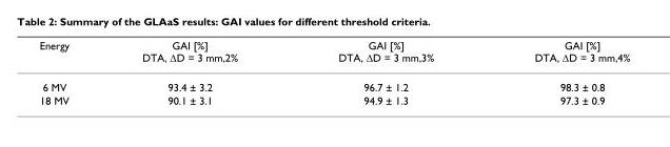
<table><thead><tr><td>Energy</td><td>GAI [%] DTA, ΔD = 3 mm,2%</td><td>GAI [%] DTA, ΔD = 3 mm,3%</td><td>GAI [%] DTA, ΔD = 3 mm,4%</td></tr></thead><tbody><tr><td>6 MV</td><td>93.4 ± 3.2</td><td>96.7 ± 1.2</td><td>98.3 ± 0.8</td></tr><tr><td>18 MV</td><td>90.1 ± 3.1</td><td>94.9 ± 1.3</td><td>97.3 ± 0.9</td></tr></tbody></table>